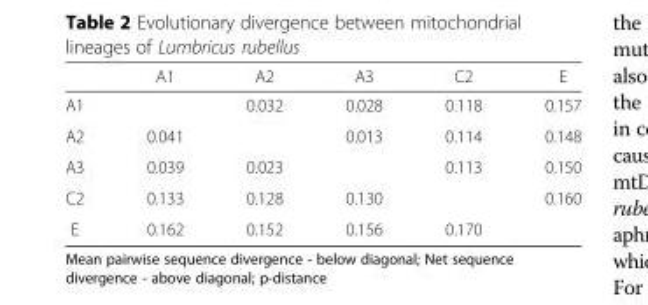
<table><thead><tr><td></td><td>A1</td><td>A2</td><td>A3</td><td>C2</td><td>E</td></tr></thead><tbody><tr><td>A1</td><td></td><td>0.032</td><td>0.028</td><td>0.118</td><td>0.157</td></tr><tr><td>A2</td><td>0.041</td><td></td><td>0.013</td><td>0.114</td><td>0.148</td></tr><tr><td>A3</td><td>0.039</td><td>0.023</td><td></td><td>0.113</td><td>0.150</td></tr><tr><td>C2</td><td>0.133</td><td>0.128</td><td>0.130</td><td></td><td>0.160</td></tr><tr><td>E</td><td>0.162</td><td>0.152</td><td>0.156</td><td>0.170</td><td></td></tr></tbody></table>